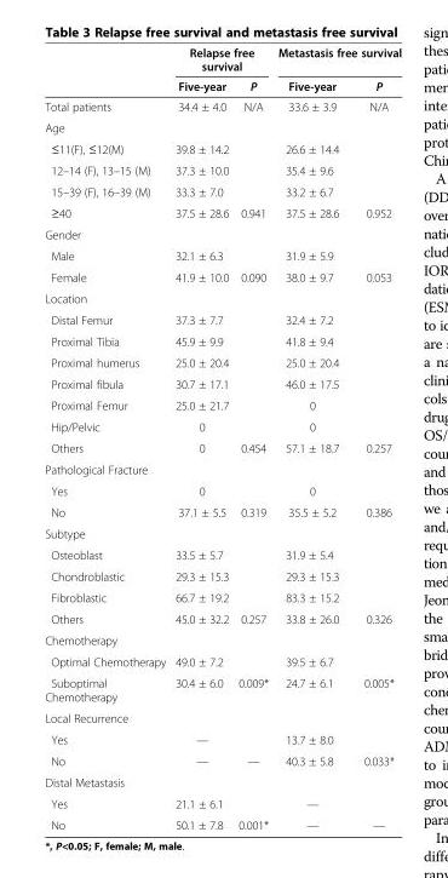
<table><thead><tr><td rowspan="2"></td><td colspan="2">Relapse free survival</td><td colspan="2">Metastasis free survival</td></tr><tr><td>Five-year</td><td>P</td><td>Five-year</td><td>P</td></tr></thead><tbody><tr><td>Total patients</td><td>34.4 ± 4.0</td><td>N/A</td><td>33.6 ± 3.9</td><td>N/A</td></tr><tr><td colspan="5">Age</td></tr><tr><td>≤11(F), ≤12(M)</td><td>39.8 ± 14.2</td><td></td><td>26.6 ± 14.4</td><td></td></tr><tr><td>12–14 (F), 13–15 (M)</td><td>37.3 ± 10.0</td><td></td><td>35.4 ± 9.6</td><td></td></tr><tr><td>15–39 (F), 16–39 (M)</td><td>33.3 ± 7.0</td><td></td><td>33.2 ± 6.7</td><td></td></tr><tr><td>≥40</td><td>37.5 ± 28.6</td><td>0.941</td><td>37.5 ± 28.6</td><td>0.952</td></tr><tr><td colspan="5">Gender</td></tr><tr><td>Male</td><td>32.1 ± 6.3</td><td></td><td>31.9 ± 5.9</td><td></td></tr><tr><td>Female</td><td>41.9 ± 10.0</td><td>0.090</td><td>38.0 ± 9.7</td><td>0.053</td></tr><tr><td colspan="5">Location</td></tr><tr><td>Distal Femur</td><td>37.3 ± 7.7</td><td></td><td>32.4 ± 7.2</td><td></td></tr><tr><td>Proximal Tibia</td><td>45.9 ± 9.9</td><td></td><td>41.8 ± 9.4</td><td></td></tr><tr><td>Proximal humerus</td><td>25.0 ± 20.4</td><td></td><td>25.0 ± 20.4</td><td></td></tr><tr><td>Proximal fibula</td><td>30.7 ± 17.1</td><td></td><td>46.0 ± 17.5</td><td></td></tr><tr><td>Proximal Femur</td><td>25.0 ± 21.7</td><td></td><td>0</td><td></td></tr><tr><td>Hip/Pelvic</td><td>0</td><td></td><td>0</td><td></td></tr><tr><td>Others</td><td>0</td><td>0.454</td><td>57.1 ± 18.7</td><td>0.257</td></tr><tr><td colspan="5">Pathological Fracture</td></tr><tr><td>Yes</td><td>0</td><td></td><td>0</td><td></td></tr><tr><td>No</td><td>37.1 ± 5.5</td><td>0.319</td><td>35.5 ± 5.2</td><td>0.386</td></tr><tr><td colspan="5">Subtype</td></tr><tr><td>Osteoblast</td><td>33.5 ± 5.7</td><td></td><td>31.9 ± 5.4</td><td></td></tr><tr><td>Chondroblastic</td><td>29.3 ± 15.3</td><td></td><td>29.3 ± 15.3</td><td></td></tr><tr><td>Fibroblastic</td><td>66.7 ± 19.2</td><td></td><td>83.3 ± 15.2</td><td></td></tr><tr><td>Others</td><td>45.0 ± 32.2</td><td>0.257</td><td>33.8 ± 26.0</td><td>0.326</td></tr><tr><td colspan="5">Chemotherapy</td></tr><tr><td>Optimal Chemotherapy</td><td>49.0 ± 7.2</td><td></td><td>39.5 ± 6.7</td><td></td></tr><tr><td>Suboptimal Chemotherapy</td><td>30.4 ± 6.0</td><td>0.009*</td><td>24.7 ± 6.1</td><td>0.005*</td></tr><tr><td colspan="5">Local Recurrence</td></tr><tr><td>Yes</td><td>—</td><td></td><td>13.7 ± 8.0</td><td></td></tr><tr><td>No</td><td>—</td><td>—</td><td>40.3 ± 5.8</td><td>0.033*</td></tr><tr><td colspan="5">Distal Metastasis</td></tr><tr><td>Yes</td><td>21.1 ± 6.1</td><td></td><td>—</td><td></td></tr><tr><td>No</td><td>50.1 ± 7.8</td><td>0.001*</td><td>—</td><td>—</td></tr></tbody></table>